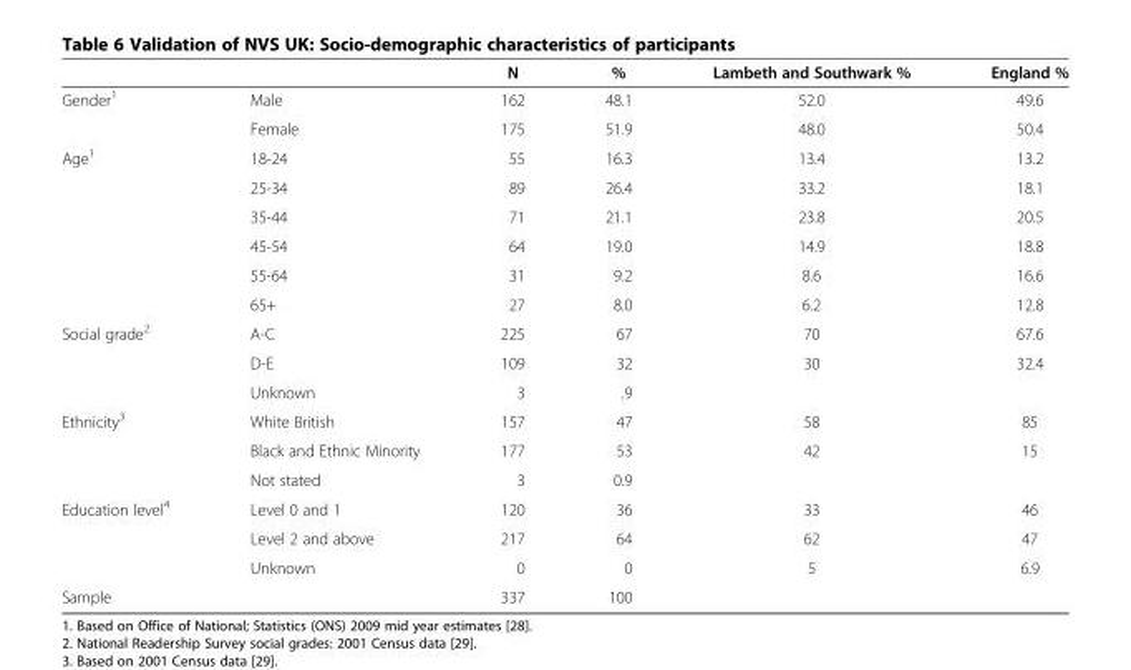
<table><thead><tr><td></td><td></td><td>N</td><td>%</td><td>Lambeth and Southwark %</td><td>England %</td></tr></thead><tbody><tr><td rowspan="2">Gender<sup>1</sup></td><td>Male</td><td>162</td><td>48.1</td><td>52.0</td><td>49.6</td></tr><tr><td>Female</td><td>175</td><td>51.9</td><td>48.0</td><td>50.4</td></tr><tr><td rowspan="6">Age<sup>1</sup></td><td>18-24</td><td>55</td><td>16.3</td><td>13.4</td><td>13.2</td></tr><tr><td>25-34</td><td>89</td><td>26.4</td><td>33.2</td><td>18.1</td></tr><tr><td>35-44</td><td>71</td><td>21.1</td><td>23.8</td><td>20.5</td></tr><tr><td>45-54</td><td>64</td><td>19.0</td><td>14.9</td><td>18.8</td></tr><tr><td>55-64</td><td>31</td><td>9.2</td><td>8.6</td><td>16.6</td></tr><tr><td>65+</td><td>27</td><td>8.0</td><td>6.2</td><td>12.8</td></tr><tr><td rowspan="3">Social grade<sup>2</sup></td><td>A-C</td><td>225</td><td>67</td><td>70</td><td>67.6</td></tr><tr><td>D-E</td><td>109</td><td>32</td><td>30</td><td>32.4</td></tr><tr><td>Unknown</td><td>3</td><td>.9</td><td></td><td></td></tr><tr><td rowspan="3">Ethnicity<sup>3</sup></td><td>White British</td><td>157</td><td>47</td><td>58</td><td>85</td></tr><tr><td>Black and Ethnic Minority</td><td>177</td><td>53</td><td>42</td><td>15</td></tr><tr><td>Not stated</td><td>3</td><td>0.9</td><td></td><td></td></tr><tr><td rowspan="3">Education level<sup>4</sup></td><td>Level 0 and 1</td><td>120</td><td>36</td><td>33</td><td>46</td></tr><tr><td>Level 2 and above</td><td>217</td><td>64</td><td>62</td><td>47</td></tr><tr><td>Unknown</td><td>0</td><td>0</td><td>5</td><td>6.9</td></tr><tr><td>Sample</td><td></td><td>337</td><td>100</td><td></td><td></td></tr></tbody></table>